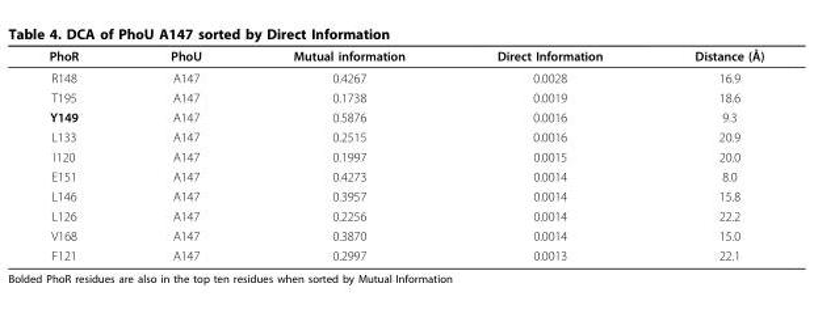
<table><thead><tr><td>PhoR</td><td>PhoU</td><td>Mutual information</td><td>Direct Information</td><td>Distance (Å)</td></tr></thead><tbody><tr><td>R148</td><td>A147</td><td>0.4267</td><td>0.0028</td><td>16.9</td></tr><tr><td>T195</td><td>A147</td><td>0.1738</td><td>0.0019</td><td>18.6</td></tr><tr><td>Y149</td><td>A147</td><td>0.5876</td><td>0.0016</td><td>9.3</td></tr><tr><td>L133</td><td>A147</td><td>0.2515</td><td>0.0016</td><td>20.9</td></tr><tr><td>I120</td><td>A147</td><td>0.1997</td><td>0.0015</td><td>20.0</td></tr><tr><td>E151</td><td>A147</td><td>0.4273</td><td>0.0014</td><td>8.0</td></tr><tr><td>L146</td><td>A147</td><td>0.3957</td><td>0.0014</td><td>15.8</td></tr><tr><td>L126</td><td>A147</td><td>0.2256</td><td>0.0014</td><td>22.2</td></tr><tr><td>V168</td><td>A147</td><td>0.3870</td><td>0.0014</td><td>15.0</td></tr><tr><td>F121</td><td>A147</td><td>0.2997</td><td>0.0013</td><td>22.1</td></tr></tbody></table>